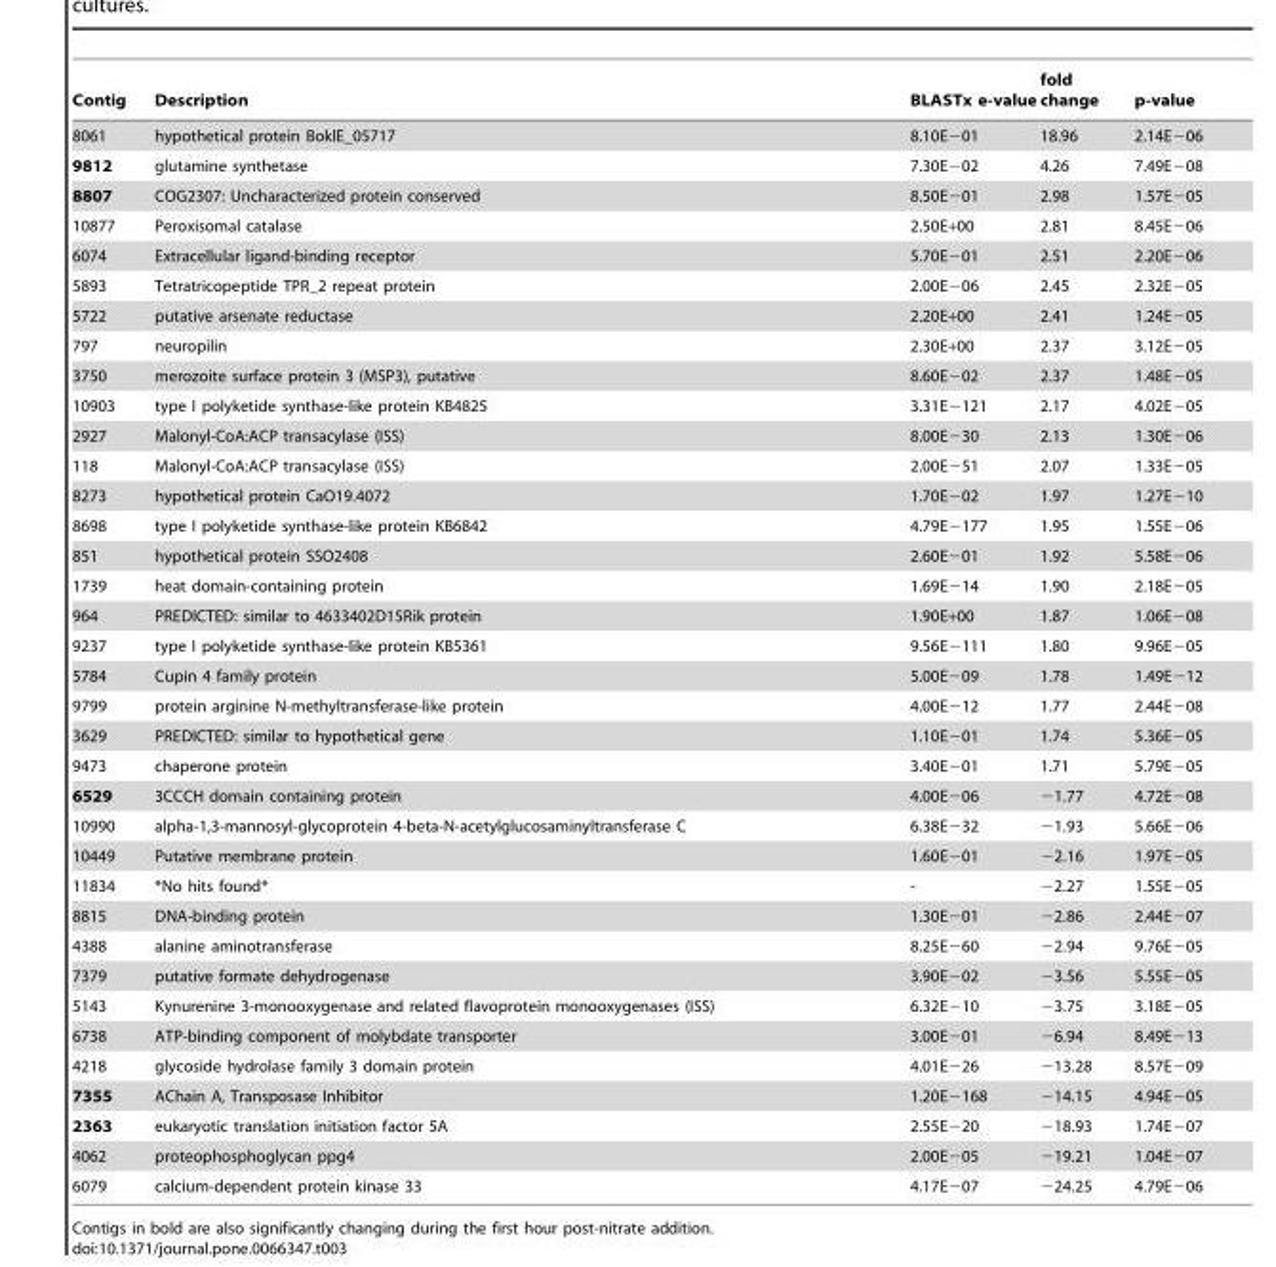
<table><thead><tr><td>Contig</td><td>Description</td><td>BLASTx e-value</td><td>fold change</td><td>p-value</td></tr></thead><tbody><tr><td>8061</td><td>hypothetical protein BoklE_05717</td><td>8.10E−01</td><td>18.96</td><td>2.14E−06</td></tr><tr><td>9812</td><td>glutamine synthetase</td><td>7.30E−02</td><td>4.26</td><td>7.49E−08</td></tr><tr><td>8807</td><td>COG2307: Uncharacterized protein conserved</td><td>8.50E−01</td><td>2.98</td><td>1.57E−05</td></tr><tr><td>10877</td><td>Peroxisomal catalase</td><td>2.50E+00</td><td>2.81</td><td>8.45E−06</td></tr><tr><td>6074</td><td>Extracellular ligand-binding receptor</td><td>5.70E−01</td><td>2.51</td><td>2.20E−06</td></tr><tr><td>5893</td><td>Tetratricopeptide TPR_2 repeat protein</td><td>2.00E−06</td><td>2.45</td><td>2.32E−05</td></tr><tr><td>5722</td><td>putative arsenate reductase</td><td>2.20E+00</td><td>2.41</td><td>1.24E−05</td></tr><tr><td>797</td><td>neuropilin</td><td>2.30E+00</td><td>2.37</td><td>3.12E−05</td></tr><tr><td>3750</td><td>merozoite surface protein 3 (MSP3), putative</td><td>8.60E−02</td><td>2.37</td><td>1.48E−05</td></tr><tr><td>10903</td><td>type I polyketide synthase-like protein KB4825</td><td>3.31E−121</td><td>2.17</td><td>4.02E−05</td></tr><tr><td>2927</td><td>Malonyl-CoA:ACP transacylase (ISS)</td><td>8.00E−30</td><td>2.13</td><td>1.30E−06</td></tr><tr><td>118</td><td>Malonyl-CoA:ACP transacylase (ISS)</td><td>2.00E−51</td><td>2.07</td><td>1.33E−05</td></tr><tr><td>8273</td><td>hypothetical protein CaO19.4072</td><td>1.70E−02</td><td>1.97</td><td>1.27E−10</td></tr><tr><td>8698</td><td>type I polyketide synthase-like protein KB6842</td><td>4.79E−177</td><td>1.95</td><td>1.55E−06</td></tr><tr><td>851</td><td>hypothetical protein SSO2408</td><td>2.60E−01</td><td>1.92</td><td>5.58E−06</td></tr><tr><td>1739</td><td>heat domain-containing protein</td><td>1.69E−14</td><td>1.90</td><td>2.18E−05</td></tr><tr><td>964</td><td>PREDICTED: similar to 4633402D15Rik protein</td><td>1.90E+00</td><td>1.87</td><td>1.06E−08</td></tr><tr><td>9237</td><td>type I polyketide synthase-like protein KB5361</td><td>9.56E−111</td><td>1.80</td><td>9.96E−05</td></tr><tr><td>5784</td><td>Cupin 4 family protein</td><td>5.00E−09</td><td>1.78</td><td>1.49E−12</td></tr><tr><td>9799</td><td>protein arginine N-methyltransferase-like protein</td><td>4.00E−12</td><td>1.77</td><td>2.44E−08</td></tr><tr><td>3629</td><td>PREDICTED: similar to hypothetical gene</td><td>1.10E−01</td><td>1.74</td><td>5.36E−05</td></tr><tr><td>9473</td><td>chaperone protein</td><td>3.40E−01</td><td>1.71</td><td>5.79E−05</td></tr><tr><td>6529</td><td>3CCCH domain containing protein</td><td>4.00E−06</td><td>−1.77</td><td>4.72E−08</td></tr><tr><td>10990</td><td>alpha-1,3-mannosyl-glycoprotein 4-beta-N-acetylglucosaminyltransferase C</td><td>6.38E−32</td><td>−1.93</td><td>5.66E−06</td></tr><tr><td>10449</td><td>Putative membrane protein</td><td>1.60E−01</td><td>−2.16</td><td>1.97E−05</td></tr><tr><td>11834</td><td>*No hits found*</td><td>-</td><td>−2.27</td><td>1.55E−05</td></tr><tr><td>8815</td><td>DNA-binding protein</td><td>1.30E−01</td><td>−2.86</td><td>2.44E−07</td></tr><tr><td>4388</td><td>alanine aminotransferase</td><td>8.25E−60</td><td>−2.94</td><td>9.76E−05</td></tr><tr><td>7379</td><td>putative formate dehydrogenase</td><td>3.90E−02</td><td>−3.56</td><td>5.55E−05</td></tr><tr><td>5143</td><td>Kynurenine 3-monooxygenase and related flavoprotein monooxygenases (ISS)</td><td>6.32E−10</td><td>−3.75</td><td>3.18E−05</td></tr><tr><td>6738</td><td>ATP-binding component of molybdate transporter</td><td>3.00E−01</td><td>−6.94</td><td>8.49E−13</td></tr><tr><td>4218</td><td>glycoside hydrolase family 3 domain protein</td><td>4.01E−26</td><td>−13.28</td><td>8.57E−09</td></tr><tr><td>7355</td><td>AChain A, Transposase Inhibitor</td><td>1.20E−168</td><td>−14.15</td><td>4.94E−05</td></tr><tr><td>2363</td><td>eukaryotic translation initiation factor 5A</td><td>2.55E−20</td><td>−18.93</td><td>1.74E−07</td></tr><tr><td>4062</td><td>proteophosphoglycan ppg4</td><td>2.00E−05</td><td>−19.21</td><td>1.04E−07</td></tr><tr><td>6079</td><td>calcium-dependent protein kinase 33</td><td>4.17E−07</td><td>−24.25</td><td>4.79E−06</td></tr></tbody></table>